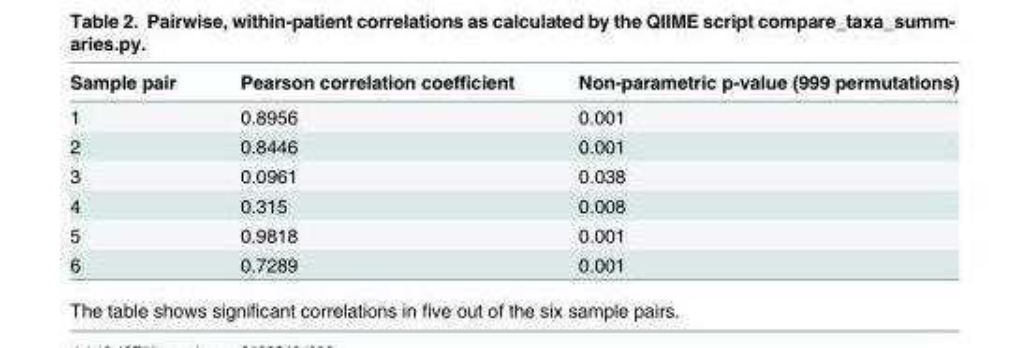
<table><thead><tr><td>Sample pair</td><td>Pearson correlation coefficient</td><td>Non-parametric p-value (999 permutations)</td></tr></thead><tbody><tr><td>1</td><td>0.8956</td><td>0.001</td></tr><tr><td>2</td><td>0.8446</td><td>0.001</td></tr><tr><td>3</td><td>0.0961</td><td>0.038</td></tr><tr><td>4</td><td>0.315</td><td>0.008</td></tr><tr><td>5</td><td>0.9818</td><td>0.001</td></tr><tr><td>6</td><td>0.7289</td><td>0.001</td></tr></tbody></table>